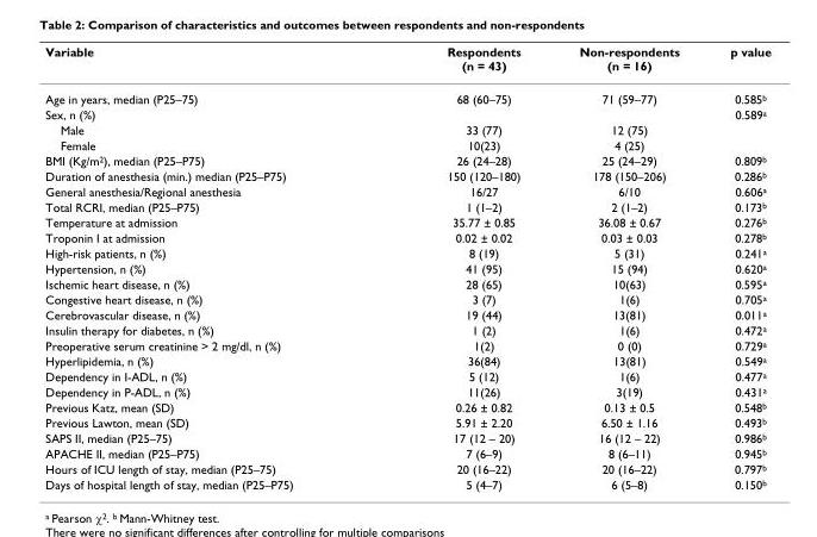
<table><thead><tr><td>Variable</td><td>Respondents (n = 43)</td><td>Non-respondents (n = 16)</td><td>p value</td></tr></thead><tbody><tr><td>Age in years, median (P25–75)</td><td>68 (60–75)</td><td>71 (59–77)</td><td>0.585<sup>b</sup></td></tr><tr><td>Sex, n (%)</td><td></td><td></td><td>0.589<sup>a</sup></td></tr><tr><td>Male</td><td>33 (77)</td><td>12 (75)</td><td></td></tr><tr><td>Female</td><td>10(23)</td><td>4 (25)</td><td></td></tr><tr><td>BMI (Kg/m<sup>2</sup>), median (P25–P75)</td><td>26 (24–28)</td><td>25 (24–29)</td><td>0.809<sup>b</sup></td></tr><tr><td>Duration of anesthesia (min.) median (P25–P75)</td><td>150 (120–180)</td><td>178 (150–206)</td><td>0.286<sup>b</sup></td></tr><tr><td>General anesthesia/Regional anesthesia</td><td>16/27</td><td>6/10</td><td>0.606<sup>a</sup></td></tr><tr><td>Total RCRI, median (P25–P75)</td><td>1 (1–2)</td><td>2 (1–2)</td><td>0.173<sup>b</sup></td></tr><tr><td>Temperature at admission</td><td>35.77 ± 0.85</td><td>36.08 ± 0.67</td><td>0.276<sup>b</sup></td></tr><tr><td>Troponin I at admission</td><td>0.02 ± 0.02</td><td>0.03 ± 0.03</td><td>0.278<sup>b</sup></td></tr><tr><td>High-risk patients, n (%)</td><td>8 (19)</td><td>5 (31)</td><td>0.241<sup>a</sup></td></tr><tr><td>Hypertension, n (%)</td><td>41 (95)</td><td>15 (94)</td><td>0.620<sup>a</sup></td></tr><tr><td>Ischemic heart disease, n (%)</td><td>28 (65)</td><td>10(63)</td><td>0.595<sup>a</sup></td></tr><tr><td>Congestive heart disease, n (%)</td><td>3 (7)</td><td>1(6)</td><td>0.705<sup>a</sup></td></tr><tr><td>Cerebrovascular disease, n (%)</td><td>19 (44)</td><td>13(81)</td><td>0.011<sup>a</sup></td></tr><tr><td>Insulin therapy for diabetes, n (%)</td><td>1 (2)</td><td>1(6)</td><td>0.472<sup>a</sup></td></tr><tr><td>Preoperative serum creatinine &gt; 2 mg/dl, n (%)</td><td>1(2)</td><td>0 (0)</td><td>0.729<sup>a</sup></td></tr><tr><td>Hyperlipidemia, n (%)</td><td>36(84)</td><td>13(81)</td><td>0.549<sup>a</sup></td></tr><tr><td>Dependency in I-ADL, n (%)</td><td>5 (12)</td><td>1(6)</td><td>0.477<sup>a</sup></td></tr><tr><td>Dependency in P-ADL, n (%)</td><td>11(26)</td><td>3(19)</td><td>0.431<sup>a</sup></td></tr><tr><td>Previous Katz, mean (SD)</td><td>0.26 ± 0.82</td><td>0.13 ± 0.5</td><td>0.548<sup>b</sup></td></tr><tr><td>Previous Lawton, mean (SD)</td><td>5.91 ± 2.20</td><td>6.50 ± 1.16</td><td>0.493<sup>b</sup></td></tr><tr><td>SAPS II, median (P25–75)</td><td>17 (12 – 20)</td><td>16 (12 – 22)</td><td>0.986<sup>b</sup></td></tr><tr><td>APACHE II, median (P25–P75)</td><td>7 (6–9)</td><td>8 (6–11)</td><td>0.945<sup>b</sup></td></tr><tr><td>Hours of ICU length of stay, median (P25–75)</td><td>20 (16–22)</td><td>20 (16–22)</td><td>0.797<sup>b</sup></td></tr><tr><td>Days of hospital length of stay, median (P25–P75)</td><td>5 (4–7)</td><td>6 (5–8)</td><td>0.150<sup>b</sup></td></tr></tbody></table>